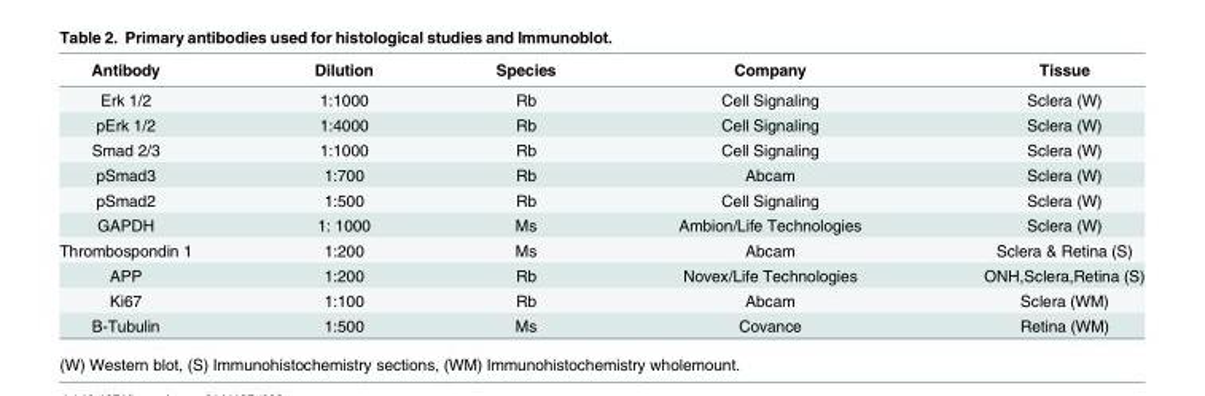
<table><thead><tr><td>Antibody</td><td>Dilution</td><td>Species</td><td>Company</td><td>Tissue</td></tr></thead><tbody><tr><td>Erk 1/2</td><td>1:1000</td><td>Rb</td><td>Cell Signaling</td><td>Sclera (W)</td></tr><tr><td>pErk 1/2</td><td>1:4000</td><td>Rb</td><td>Cell Signaling</td><td>Sclera (W)</td></tr><tr><td>Smad 2/3</td><td>1:1000</td><td>Rb</td><td>Cell Signaling</td><td>Sclera (W)</td></tr><tr><td>pSmad3</td><td>1:700</td><td>Rb</td><td>Abcam</td><td>Sclera (W)</td></tr><tr><td>pSmad2</td><td>1:500</td><td>Rb</td><td>Cell Signaling</td><td>Sclera (W)</td></tr><tr><td>GAPDH</td><td>1: 1000</td><td>Ms</td><td>Ambion/Life Technologies</td><td>Sclera (W)</td></tr><tr><td>Thrombospondin 1</td><td>1:200</td><td>Ms</td><td>Abcam</td><td>Sclera &amp; Retina (S)</td></tr><tr><td>APP</td><td>1:200</td><td>Rb</td><td>Novex/Life Technologies</td><td>ONH,Sclera,Retina (S)</td></tr><tr><td>Ki67</td><td>1:100</td><td>Rb</td><td>Abcam</td><td>Sclera (WM)</td></tr><tr><td>B-Tubulin</td><td>1:500</td><td>Ms</td><td>Covance</td><td>Retina (WM)</td></tr></tbody></table>